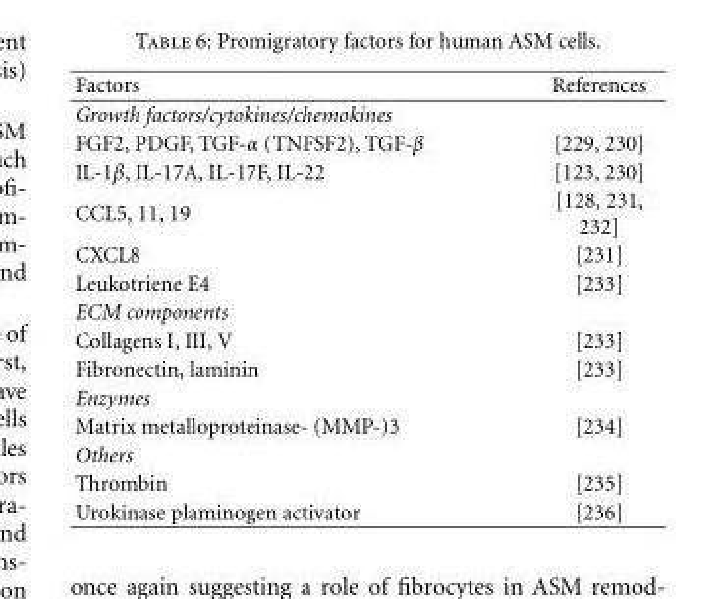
<table><thead><tr><td>Factors</td><td>References</td></tr></thead><tbody><tr><td colspan="2">Growth factors/cytokines/chemokines</td></tr><tr><td>FGF2, PDGF, TGF-α (TNFSF2), TGF-β</td><td>[229, 230]</td></tr><tr><td>IL-1β, IL-17A, IL-17F, IL-22</td><td>[123, 230]</td></tr><tr><td>CCL5, 11, 19</td><td>[128, 231, 232]</td></tr><tr><td>CXCL8</td><td>[231]</td></tr><tr><td>Leukotriene E4</td><td>[233]</td></tr><tr><td colspan="2">ECM components</td></tr><tr><td>Collagens I, III, V</td><td>[233]</td></tr><tr><td>Fibronectin, laminin</td><td>[233]</td></tr><tr><td colspan="2">Enzymes</td></tr><tr><td>Matrix metalloproteinase- (MMP-)3</td><td>[234]</td></tr><tr><td colspan="2">Others</td></tr><tr><td>Thrombin</td><td>[235]</td></tr><tr><td>Urokinase plaminogen activator</td><td>[236]</td></tr></tbody></table>